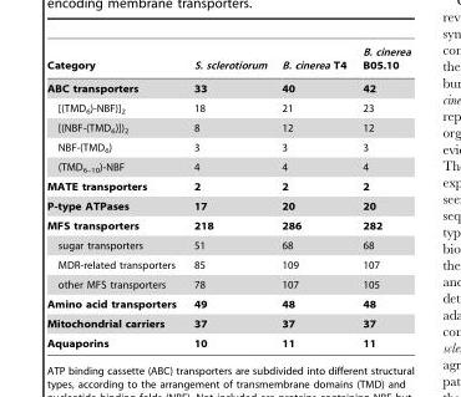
<table><thead><tr><td>Category</td><td>S. sclerotiorum</td><td>B. cinerea T4</td><td>B. cinerea B05.10</td></tr></thead><tbody><tr><td>ABC transporters</td><td>33</td><td>40</td><td>42</td></tr><tr><td>[(TMD<sub>6</sub>)-NBF)]<sub>2</sub></td><td>18</td><td>21</td><td>23</td></tr><tr><td>[(NBF-(TMD<sub>6</sub>)])<sub>2</sub></td><td>8</td><td>12</td><td>12</td></tr><tr><td>NBF-(TMD<sub>6</sub>)</td><td>3</td><td>3</td><td>3</td></tr><tr><td>(TMD<sub>6–10</sub>)-NBF</td><td>4</td><td>4</td><td>4</td></tr><tr><td>MATE transporters</td><td>2</td><td>2</td><td>2</td></tr><tr><td>P-type ATPases</td><td>17</td><td>20</td><td>20</td></tr><tr><td>MFS transporters</td><td>218</td><td>286</td><td>282</td></tr><tr><td>sugar transporters</td><td>51</td><td>68</td><td>68</td></tr><tr><td>MDR-related transporters</td><td>85</td><td>109</td><td>107</td></tr><tr><td>other MFS transporters</td><td>78</td><td>107</td><td>105</td></tr><tr><td>Amino acid transporters</td><td>49</td><td>48</td><td>48</td></tr><tr><td>Mitochondrial carriers</td><td>37</td><td>37</td><td>37</td></tr><tr><td>Aquaporins</td><td>10</td><td>11</td><td>11</td></tr></tbody></table>